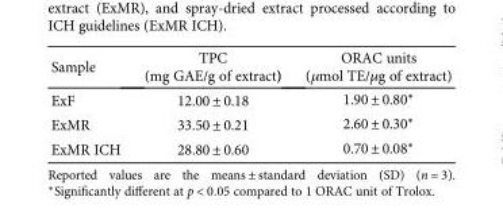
<table><thead><tr><td>Sample</td><td>TPC (mg GAE/g of extract)</td><td>ORAC units (μmol TE/μg of extract)</td></tr></thead><tbody><tr><td>ExF</td><td>12.00 ± 0.18</td><td>1.90 ± 0.80∗</td></tr><tr><td>ExMR</td><td>33.50 ± 0.21</td><td>2.60 ± 0.30∗</td></tr><tr><td>ExMR ICH</td><td>28.80 ± 0.60</td><td>0.70 ± 0.08∗</td></tr></tbody></table>